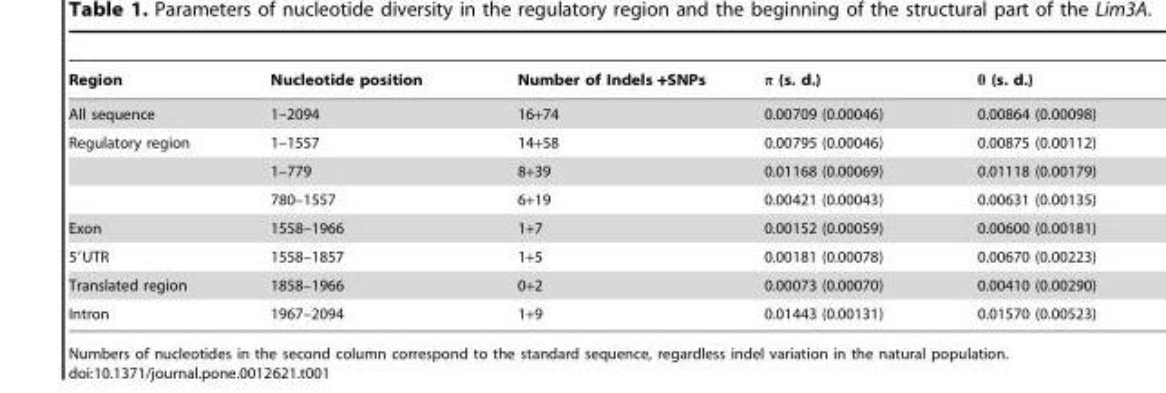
<table><thead><tr><td>Region</td><td>Nucleotide position</td><td>Number of Indels +SNPs</td><td>π (s. d.)</td><td>θ (s. d.)</td></tr></thead><tbody><tr><td>All sequence</td><td>1–2094</td><td>16+74</td><td>0.00709 (0.00046)</td><td>0.00864 (0.00098)</td></tr><tr><td rowspan="3">Regulatory region</td><td>1–1557</td><td>14+58</td><td>0.00795 (0.00046)</td><td>0.00875 (0.00112)</td></tr><tr><td>1–779</td><td>8+39</td><td>0.01168 (0.00069)</td><td>0.01118 (0.00179)</td></tr><tr><td>780–1557</td><td>6+19</td><td>0.00421 (0.00043)</td><td>0.00631 (0.00135)</td></tr><tr><td>Exon</td><td>1558–1966</td><td>1+7</td><td>0.00152 (0.00059)</td><td>0.00600 (0.00181)</td></tr><tr><td>5′UTR</td><td>1558–1857</td><td>1+5</td><td>0.00181 (0.00078)</td><td>0.00670 (0.00223)</td></tr><tr><td>Translated region</td><td>1858–1966</td><td>0+2</td><td>0.00073 (0.00070)</td><td>0.00410 (0.00290)</td></tr><tr><td>Intron</td><td>1967–2094</td><td>1+9</td><td>0.01443 (0.00131)</td><td>0.01570 (0.00523)</td></tr></tbody></table>